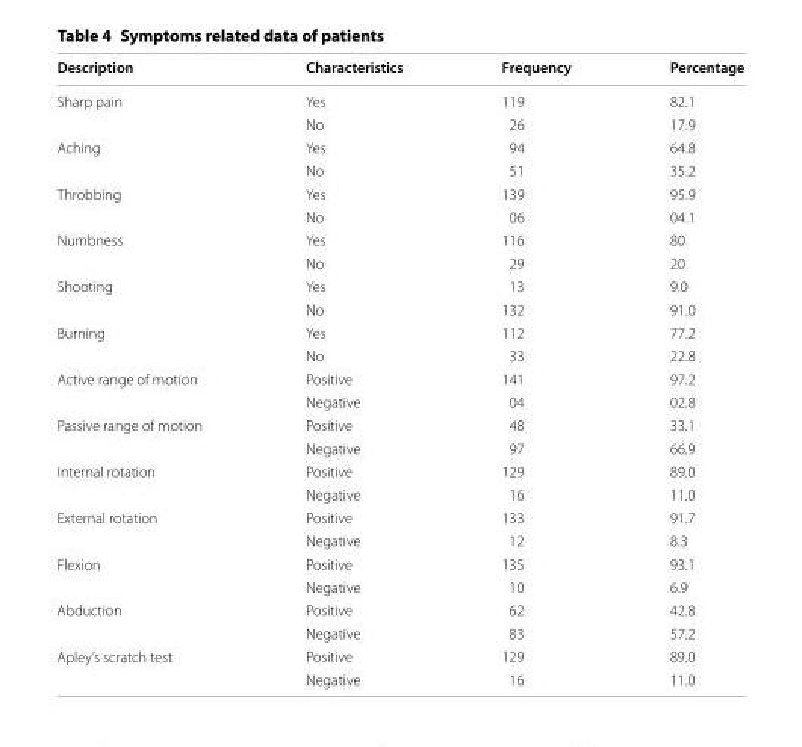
<table><thead><tr><td>Description</td><td>Characteristics</td><td>Frequency</td><td>Percentage</td></tr></thead><tbody><tr><td rowspan="2">Sharp pain</td><td>Yes</td><td>119</td><td>82.1</td></tr><tr><td>No</td><td>26</td><td>17.9</td></tr><tr><td rowspan="2">Aching</td><td>Yes</td><td>94</td><td>64.8</td></tr><tr><td>No</td><td>51</td><td>35.2</td></tr><tr><td rowspan="2">Throbbing</td><td>Yes</td><td>139</td><td>95.9</td></tr><tr><td>No</td><td>06</td><td>04.1</td></tr><tr><td rowspan="2">Numbness</td><td>Yes</td><td>116</td><td>80</td></tr><tr><td>No</td><td>29</td><td>20</td></tr><tr><td rowspan="2">Shooting</td><td>Yes</td><td>13</td><td>9.0</td></tr><tr><td>No</td><td>132</td><td>91.0</td></tr><tr><td rowspan="2">Burning</td><td>Yes</td><td>112</td><td>77.2</td></tr><tr><td>No</td><td>33</td><td>22.8</td></tr><tr><td rowspan="2">Active range of motion</td><td>Positive</td><td>141</td><td>97.2</td></tr><tr><td>Negative</td><td>04</td><td>02.8</td></tr><tr><td rowspan="2">Passive range of motion</td><td>Positive</td><td>48</td><td>33.1</td></tr><tr><td>Negative</td><td>97</td><td>66.9</td></tr><tr><td rowspan="2">Internal rotation</td><td>Positive</td><td>129</td><td>89.0</td></tr><tr><td>Negative</td><td>16</td><td>11.0</td></tr><tr><td rowspan="2">External rotation</td><td>Positive</td><td>133</td><td>91.7</td></tr><tr><td>Negative</td><td>12</td><td>8.3</td></tr><tr><td rowspan="2">Flexion</td><td>Positive</td><td>135</td><td>93.1</td></tr><tr><td>Negative</td><td>10</td><td>6.9</td></tr><tr><td rowspan="2">Abduction</td><td>Positive</td><td>62</td><td>42.8</td></tr><tr><td>Negative</td><td>83</td><td>57.2</td></tr><tr><td rowspan="2">Apley’s scratch test</td><td>Positive</td><td>129</td><td>89.0</td></tr><tr><td>Negative</td><td>16</td><td>11.0</td></tr></tbody></table>